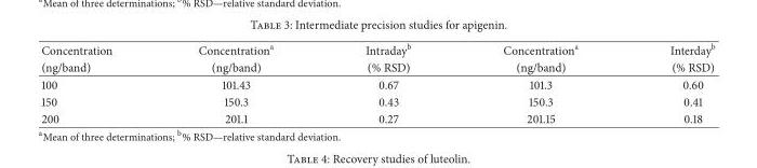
<table><thead><tr><td rowspan="2">Concentration (ng/band)</td><td rowspan="2">Concentration<sup>a</sup> (ng/band)</td><td rowspan="2">Intraday<sup>b</sup> (% RSD)</td><td rowspan="2">Concentration<sup>a</sup> (ng/band)</td><td rowspan="2">Interday<sup>b</sup> (% RSD)</td></tr><tr></tr></thead><tbody><tr><td>100</td><td>101.43</td><td>0.67</td><td>101.3</td><td>0.60</td></tr><tr><td>150</td><td>150.3</td><td>0.43</td><td>150.3</td><td>0.41</td></tr><tr><td>200</td><td>201.1</td><td>0.27</td><td>201.15</td><td>0.18</td></tr></tbody></table>